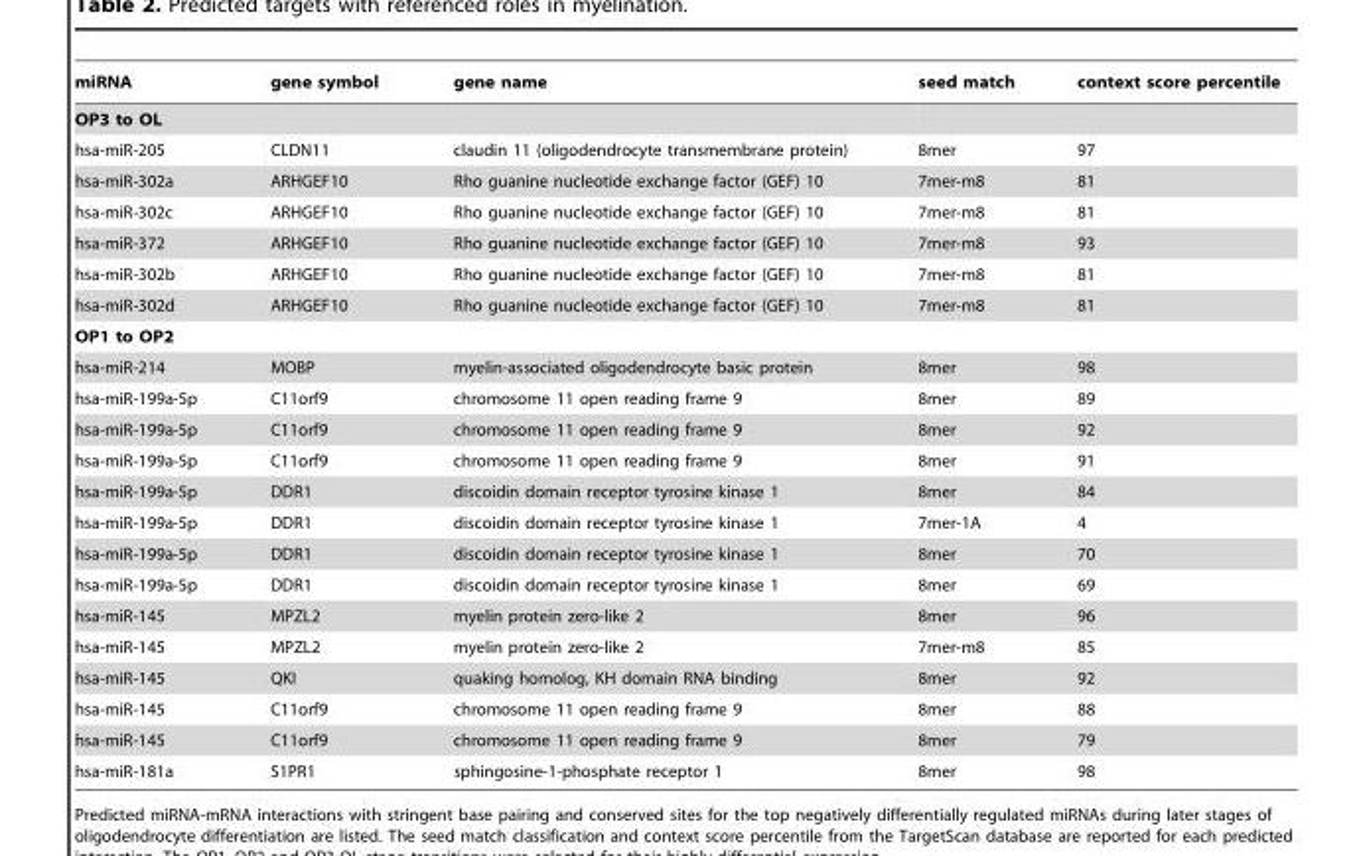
<table><thead><tr><td>miRNA</td><td>gene symbol</td><td>gene name</td><td>seed match</td><td>context score percentile</td></tr></thead><tbody><tr><td colspan="5">OP3 to OL</td></tr><tr><td>hsa-miR-205</td><td>CLDN11</td><td>claudin 11 (oligodendrocyte transmembrane protein)</td><td>8mer</td><td>97</td></tr><tr><td>hsa-miR-302a</td><td>ARHGEF10</td><td>Rho guanine nucleotide exchange factor (GEF) 10</td><td>7mer-m8</td><td>81</td></tr><tr><td>hsa-miR-302c</td><td>ARHGEF10</td><td>Rho guanine nucleotide exchange factor (GEF) 10</td><td>7mer-m8</td><td>81</td></tr><tr><td>hsa-miR-372</td><td>ARHGEF10</td><td>Rho guanine nucleotide exchange factor (GEF) 10</td><td>7mer-m8</td><td>93</td></tr><tr><td>hsa-miR-302b</td><td>ARHGEF10</td><td>Rho guanine nucleotide exchange factor (GEF) 10</td><td>7mer-m8</td><td>81</td></tr><tr><td>hsa-miR-302d</td><td>ARHGEF10</td><td>Rho guanine nucleotide exchange factor (GEF) 10</td><td>7mer-m8</td><td>81</td></tr><tr><td colspan="5">OP1 to OP2</td></tr><tr><td>hsa-miR-214</td><td>MOBP</td><td>myelin-associated oligodendrocyte basic protein</td><td>8mer</td><td>98</td></tr><tr><td>hsa-miR-199a-5p</td><td>C11orf9</td><td>chromosome 11 open reading frame 9</td><td>8mer</td><td>89</td></tr><tr><td>hsa-miR-199a-5p</td><td>C11orf9</td><td>chromosome 11 open reading frame 9</td><td>8mer</td><td>92</td></tr><tr><td>hsa-miR-199a-5p</td><td>C11orf9</td><td>chromosome 11 open reading frame 9</td><td>8mer</td><td>91</td></tr><tr><td>hsa-miR-199a-5p</td><td>DDR1</td><td>discoidin domain receptor tyrosine kinase 1</td><td>8mer</td><td>84</td></tr><tr><td>hsa-miR-199a-5p</td><td>DDR1</td><td>discoidin domain receptor tyrosine kinase 1</td><td>7mer-1A</td><td>4</td></tr><tr><td>hsa-miR-199a-5p</td><td>DDR1</td><td>discoidin domain receptor tyrosine kinase 1</td><td>8mer</td><td>70</td></tr><tr><td>hsa-miR-199a-5p</td><td>DDR1</td><td>discoidin domain receptor tyrosine kinase 1</td><td>8mer</td><td>69</td></tr><tr><td>hsa-miR-145</td><td>MPZL2</td><td>myelin protein zero-like 2</td><td>8mer</td><td>96</td></tr><tr><td>hsa-miR-145</td><td>MPZL2</td><td>myelin protein zero-like 2</td><td>7mer-m8</td><td>85</td></tr><tr><td>hsa-miR-145</td><td>QKI</td><td>quaking homolog, KH domain RNA binding</td><td>8mer</td><td>92</td></tr><tr><td>hsa-miR-145</td><td>C11orf9</td><td>chromosome 11 open reading frame 9</td><td>8mer</td><td>88</td></tr><tr><td>hsa-miR-145</td><td>C11orf9</td><td>chromosome 11 open reading frame 9</td><td>8mer</td><td>79</td></tr><tr><td>hsa-miR-181a</td><td>S1PR1</td><td>sphingosine-1-phosphate receptor 1</td><td>8mer</td><td>98</td></tr></tbody></table>